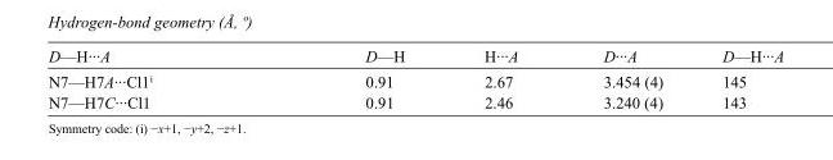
<table><tbody><tr><td>D—H···A</td><td>D—H</td><td>H···A</td><td>D···A</td><td>D—H···A</td></tr><tr><td>N7—H7A···Cl1<sup>i</sup></td><td>0.91</td><td>2.67</td><td>3.454 (4)</td><td>145</td></tr><tr><td>N7—H7C···Cl1</td><td>0.91</td><td>2.46</td><td>3.240 (4)</td><td>143</td></tr></tbody></table>